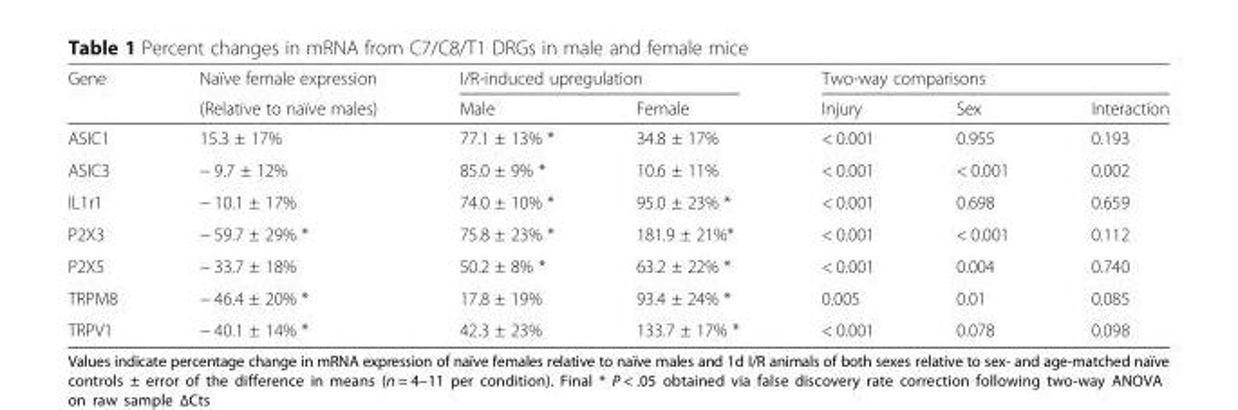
<table><thead><tr><td rowspan="2">Gene</td><td rowspan="2">Naïve female expression (Relative to naïve males)</td><td colspan="2">I/R-induced upregulation</td><td colspan="3">Two-way comparisons</td></tr><tr><td>Male</td><td>Female</td><td>Injury</td><td>Sex</td><td>Interaction</td></tr></thead><tbody><tr><td>ASIC1</td><td>15.3 ± 17%</td><td>77.1 ± 13% *</td><td>34.8 ± 17%</td><td>&lt; 0.001</td><td>0.955</td><td>0.193</td></tr><tr><td>ASIC3</td><td>− 9.7 ± 12%</td><td>85.0 ± 9% *</td><td>10.6 ± 11%</td><td>&lt; 0.001</td><td>&lt; 0.001</td><td>0.002</td></tr><tr><td>IL1r1</td><td>− 10.1 ± 17%</td><td>74.0 ± 10% *</td><td>95.0 ± 23% *</td><td>&lt; 0.001</td><td>0.698</td><td>0.659</td></tr><tr><td>P2X3</td><td>− 59.7 ± 29% *</td><td>75.8 ± 23% *</td><td>181.9 ± 21%*</td><td>&lt; 0.001</td><td>&lt; 0.001</td><td>0.112</td></tr><tr><td>P2X5</td><td>− 33.7 ± 18%</td><td>50.2 ± 8% *</td><td>63.2 ± 22% *</td><td>&lt; 0.001</td><td>0.004</td><td>0.740</td></tr><tr><td>TRPM8</td><td>− 46.4 ± 20% *</td><td>17.8 ± 19%</td><td>93.4 ± 24% *</td><td>0.005</td><td>0.01</td><td>0.085</td></tr><tr><td>TRPV1</td><td>− 40.1 ± 14% *</td><td>42.3 ± 23%</td><td>133.7 ± 17% *</td><td>&lt; 0.001</td><td>0.078</td><td>0.098</td></tr></tbody></table>